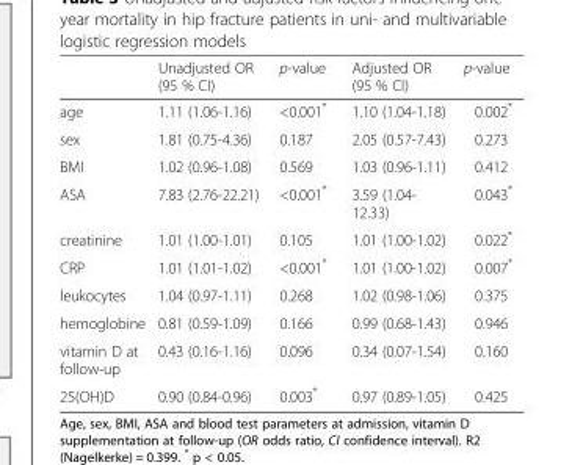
<table><thead><tr><td></td><td>Unadjusted OR (95 % CI)</td><td>p-value</td><td>Adjusted OR (95 % CI)</td><td>p-value</td></tr></thead><tbody><tr><td>age</td><td>1.11 (1.06-1.16)</td><td>&lt;0.001*</td><td>1.10 (1.04-1.18)</td><td>0.002*</td></tr><tr><td>sex</td><td>1.81 (0.75-4.36)</td><td>0.187</td><td>2.05 (0.57-7.43)</td><td>0.273</td></tr><tr><td>BMI</td><td>1.02 (0.96-1.08)</td><td>0.569</td><td>1.03 (0.96-1.11)</td><td>0.412</td></tr><tr><td>ASA</td><td>7.83 (2.76-22.21)</td><td>&lt;0.001*</td><td>3.59 (1.04- 12.33)</td><td>0.043*</td></tr><tr><td>creatinine</td><td>1.01 (1.00-1.01)</td><td>0.105</td><td>1.01 (1.00-1.02)</td><td>0.022*</td></tr><tr><td>CRP</td><td>1.01 (1.01-1.02)</td><td>&lt;0.001*</td><td>1.01 (1.00-1.02)</td><td>0.007*</td></tr><tr><td>leukocytes</td><td>1.04 (0.97-1.11)</td><td>0.268</td><td>1.02 (0.98-1.06)</td><td>0.375</td></tr><tr><td>hemoglobine</td><td>0.81 (0.59-1.09)</td><td>0.166</td><td>0.99 (0.68-1.43)</td><td>0.946</td></tr><tr><td>vitamin D at follow-up</td><td>0.43 (0.16-1.16)</td><td>0.096</td><td>0.34 (0.07-1.54)</td><td>0.160</td></tr><tr><td>25(OH)D</td><td>0.90 (0.84-0.96)</td><td>0.003*</td><td>0.97 (0.89-1.05)</td><td>0.425</td></tr></tbody></table>